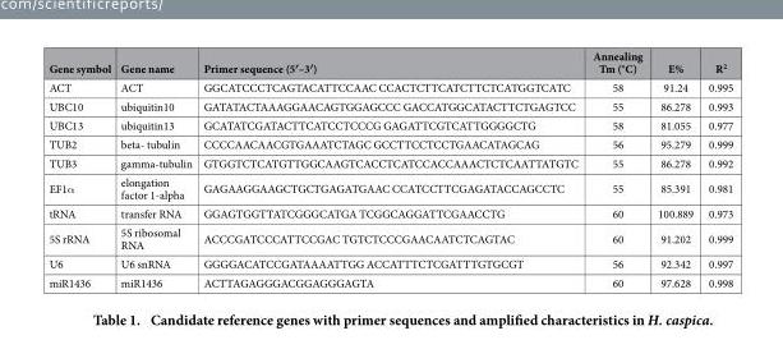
<table><thead><tr><td>Gene symbol</td><td>Gene name</td><td>Primer sequence (5′–3′)</td><td>Annealing Tm (°C)</td><td>E%</td><td>R<sup>2</sup></td></tr></thead><tbody><tr><td>ACT</td><td>ACT</td><td>GGCATCCCTCAGTACATTCCAAC CCACTCTTCATCTTCTCATGGTCATC</td><td>58</td><td>91.24</td><td>0.995</td></tr><tr><td>UBC10</td><td>ubiquitin10</td><td>GATATACTAAAGGAACAGTGGAGCCC GACCATGGCATACTTCTGAGTCC</td><td>55</td><td>86.278</td><td>0.993</td></tr><tr><td>UBC13</td><td>ubiquitin13</td><td>GCATATCGATACTTCATCCTCCCG GAGATTCGTCATTGGGGCTG</td><td>58</td><td>81.055</td><td>0.977</td></tr><tr><td>TUB2</td><td>beta- tubulin</td><td>CCCCAACAACGTGAAATCTAGC GCCTTCCTCCTGAACATAGCAG</td><td>56</td><td>95.279</td><td>0.999</td></tr><tr><td>TUB3</td><td>gamma-tubulin</td><td>GTGGTCTCATGTTGGCAAGTCACCTCATCCACCAAACTCTCAATTATGTC</td><td>55</td><td>86.278</td><td>0.992</td></tr><tr><td>EF1α</td><td>elongation factor 1-alpha</td><td>GAGAAGGAAGCTGCTGAGATGAAC CCATCCTTCGAGATACCAGCCTC</td><td>55</td><td>85.391</td><td>0.981</td></tr><tr><td>tRNA</td><td>transfer RNA</td><td>GGAGTGGTTATCGGGCATGA TCGGCAGGATTCGAACCTG</td><td>60</td><td>100.889</td><td>0.973</td></tr><tr><td>5S rRNA</td><td>5S ribosomal RNA</td><td>ACCCGATCCCATTCCGAC TGTCTCCCGAACAATCTCAGTAC</td><td>60</td><td>91.202</td><td>0.999</td></tr><tr><td>U6</td><td>U6 snRNA</td><td>GGGGACATCCGATAAAATTGG ACCATTTCTCGATTTGTGCGT</td><td>56</td><td>92.342</td><td>0.997</td></tr><tr><td>miR1436</td><td>miR1436</td><td>ACTTAGAGGGACGGAGGGAGTA</td><td>60</td><td>97.628</td><td>0.998</td></tr></tbody></table>